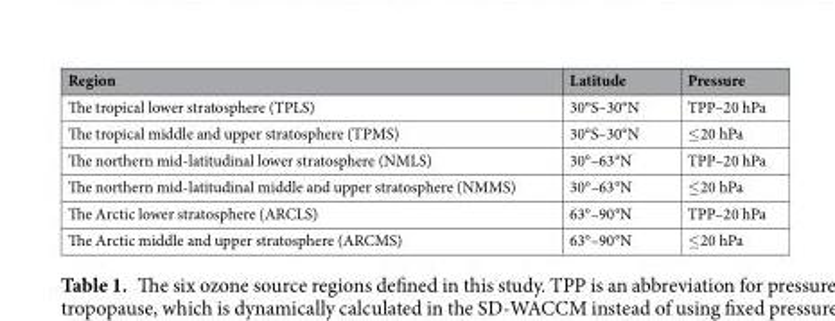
<table><thead><tr><td>Region</td><td>Latitude</td><td>Pressure</td></tr></thead><tbody><tr><td>The tropical lower stratosphere (TPLS)</td><td>30°S–30°N</td><td>TPP–20 hPa</td></tr><tr><td>The tropical middle and upper stratosphere (TPMS)</td><td>30°S–30°N</td><td>≤20 hPa</td></tr><tr><td>The northern mid-latitudinal lower stratosphere (NMLS)</td><td>30°–63°N</td><td>TPP–20 hPa</td></tr><tr><td>The northern mid-latitudinal middle and upper stratosphere (NMMS)</td><td>30°–63°N</td><td>≤20 hPa</td></tr><tr><td>The Arctic lower stratosphere (ARCLS)</td><td>63°–90°N</td><td>TPP–20 hPa</td></tr><tr><td>The Arctic middle and upper stratosphere (ARCMS)</td><td>63°–90°N</td><td>≤20 hPa</td></tr></tbody></table>